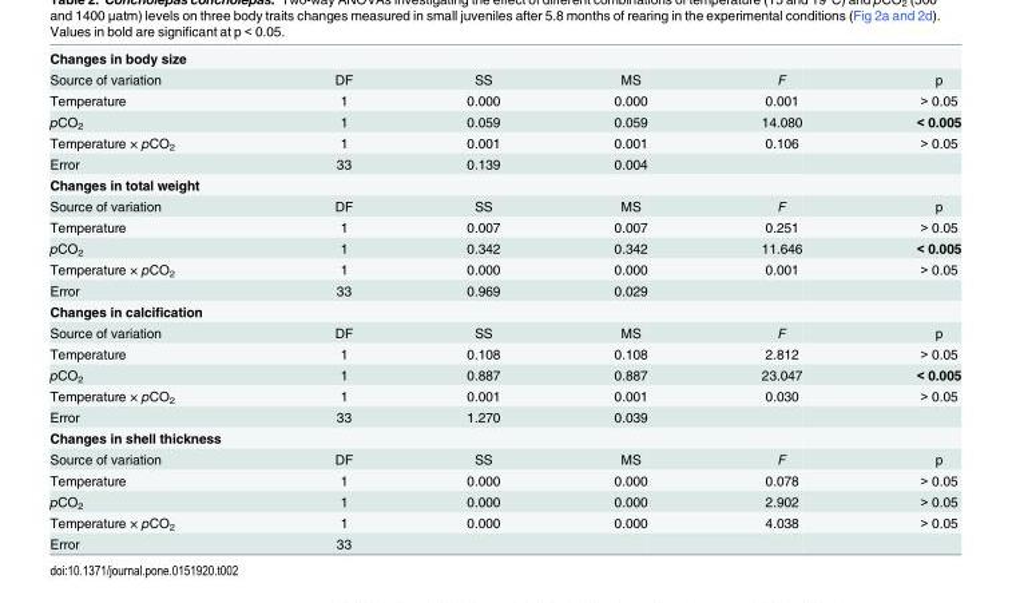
<table><tbody><tr><td colspan="6">Changes in body size</td></tr><tr><td>Source of variation</td><td>DF</td><td>SS</td><td>MS</td><td>F</td><td>p</td></tr><tr><td>Temperature</td><td>1</td><td>0.000</td><td>0.000</td><td>0.001</td><td>&gt; 0.05</td></tr><tr><td>pCO<sub>2</sub></td><td>1</td><td>0.059</td><td>0.059</td><td>14.080</td><td>&lt; 0.005</td></tr><tr><td>Temperature × pCO<sub>2</sub></td><td>1</td><td>0.001</td><td>0.001</td><td>0.106</td><td>&gt; 0.05</td></tr><tr><td>Error</td><td>33</td><td>0.139</td><td>0.004</td><td></td><td></td></tr><tr><td colspan="6">Changes in total weight</td></tr><tr><td>Source of variation</td><td>DF</td><td>SS</td><td>MS</td><td>F</td><td>p</td></tr><tr><td>Temperature</td><td>1</td><td>0.007</td><td>0.007</td><td>0.251</td><td>&gt; 0.05</td></tr><tr><td>pCO<sub>2</sub></td><td>1</td><td>0.342</td><td>0.342</td><td>11.646</td><td>&lt; 0.005</td></tr><tr><td>Temperature × pCO<sub>2</sub></td><td>1</td><td>0.000</td><td>0.000</td><td>0.001</td><td>&gt; 0.05</td></tr><tr><td>Error</td><td>33</td><td>0.969</td><td>0.029</td><td></td><td></td></tr><tr><td colspan="6">Changes in calcification</td></tr><tr><td>Source of variation</td><td>DF</td><td>SS</td><td>MS</td><td>F</td><td>p</td></tr><tr><td>Temperature</td><td>1</td><td>0.108</td><td>0.108</td><td>2.812</td><td>&gt; 0.05</td></tr><tr><td>pCO<sub>2</sub></td><td>1</td><td>0.887</td><td>0.887</td><td>23.047</td><td>&lt; 0.005</td></tr><tr><td>Temperature × pCO<sub>2</sub></td><td>1</td><td>0.001</td><td>0.001</td><td>0.030</td><td>&gt; 0.05</td></tr><tr><td>Error</td><td>33</td><td>1.270</td><td>0.039</td><td></td><td></td></tr><tr><td colspan="6">Changes in shell thickness</td></tr><tr><td>Source of variation</td><td>DF</td><td>SS</td><td>MS</td><td>F</td><td>p</td></tr><tr><td>Temperature</td><td>1</td><td>0.000</td><td>0.000</td><td>0.078</td><td>&gt; 0.05</td></tr><tr><td>pCO<sub>2</sub></td><td>1</td><td>0.000</td><td>0.000</td><td>2.902</td><td>&gt; 0.05</td></tr><tr><td>Temperature × pCO<sub>2</sub></td><td>1</td><td>0.000</td><td>0.000</td><td>4.038</td><td>&gt; 0.05</td></tr><tr><td>Error</td><td>33</td><td></td><td></td><td></td><td></td></tr></tbody></table>